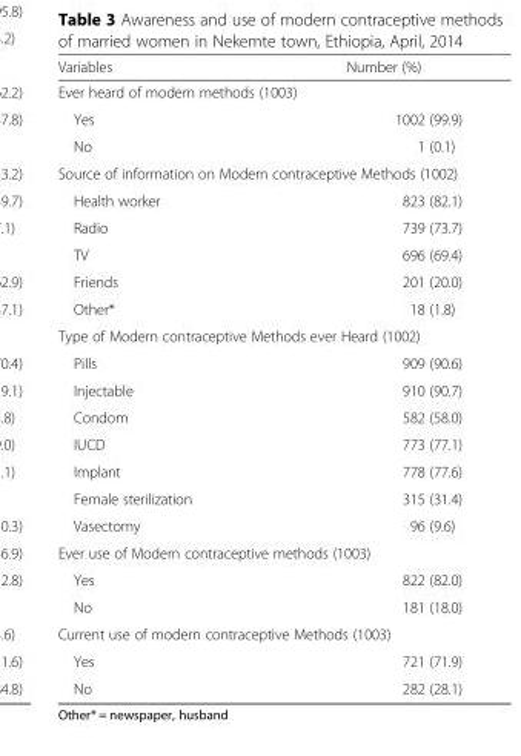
<table><thead><tr><td>Variables</td><td>Number (%)</td></tr></thead><tbody><tr><td colspan="2">Ever heard of modern methods (1003)</td></tr><tr><td>Yes</td><td>1002 (99.9)</td></tr><tr><td>No</td><td>1 (0.1)</td></tr><tr><td colspan="2">Source of information on Modern contraceptive Methods (1002)</td></tr><tr><td>Health worker</td><td>823 (82.1)</td></tr><tr><td>Radio</td><td>739 (73.7)</td></tr><tr><td>TV</td><td>696 (69.4)</td></tr><tr><td>Friends</td><td>201 (20.0)</td></tr><tr><td>Other*</td><td>18 (1.8)</td></tr><tr><td colspan="2">Type of Modern contraceptive Methods ever Heard (1002)</td></tr><tr><td>Pills</td><td>909 (90.6)</td></tr><tr><td>Injectable</td><td>910 (90.7)</td></tr><tr><td>Condom</td><td>582 (58.0)</td></tr><tr><td>IUCD</td><td>773 (77.1)</td></tr><tr><td>Implant</td><td>778 (77.6)</td></tr><tr><td>Female sterilization</td><td>315 (31.4)</td></tr><tr><td>Vasectomy</td><td>96 (9.6)</td></tr><tr><td colspan="2">Ever use of Modern contraceptive methods (1003)</td></tr><tr><td>Yes</td><td>822 (82.0)</td></tr><tr><td>No</td><td>181 (18.0)</td></tr><tr><td colspan="2">Current use of modern contraceptive Methods (1003)</td></tr><tr><td>Yes</td><td>721 (71.9)</td></tr><tr><td>No</td><td>282 (28.1)</td></tr></tbody></table>